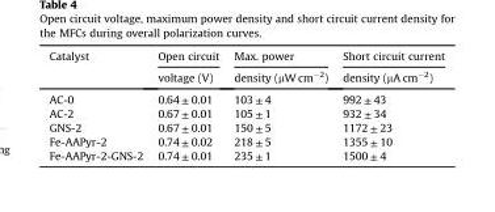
<table><thead><tr><td rowspan="2">Catalyst</td><td rowspan="2">Open circuit voltage (V)</td><td rowspan="2">Max. power density (μW cm<sup>−2</sup>)</td><td rowspan="2">Short circuit current density (μA cm<sup>−2</sup>)</td></tr><tr></tr></thead><tbody><tr><td>AC-0</td><td>0.64 ± 0.01</td><td>103 ± 4</td><td>992 ± 43</td></tr><tr><td>AC-2</td><td>0.67 ± 0.01</td><td>105 ± 1</td><td>932 ± 34</td></tr><tr><td>GNS-2</td><td>0.67 ± 0.01</td><td>150 ± 5</td><td>1172 ± 23</td></tr><tr><td>Fe-AAPyr-2</td><td>0.74 ± 0.02</td><td>218 ± 5</td><td>1355 ± 10</td></tr><tr><td>Fe-AAPyr-2-GNS-2</td><td>0.74 ± 0.01</td><td>235 ± 1</td><td>1500 ± 4</td></tr></tbody></table>